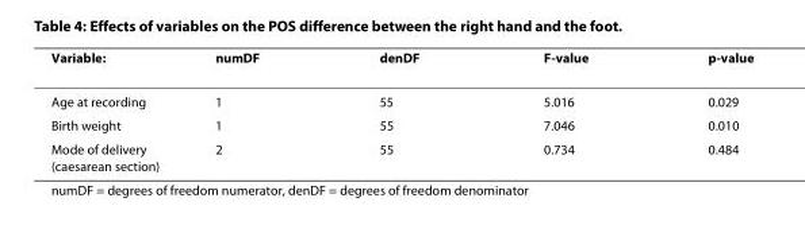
<table><thead><tr><td>Variable:</td><td>numDF</td><td>denDF</td><td>F-value</td><td>p-value</td></tr></thead><tbody><tr><td>Age at recording</td><td>1</td><td>55</td><td>5.016</td><td>0.029</td></tr><tr><td>Birth weight</td><td>1</td><td>55</td><td>7.046</td><td>0.010</td></tr><tr><td>Mode of delivery (caesarean section)</td><td>2</td><td>55</td><td>0.734</td><td>0.484</td></tr></tbody></table>